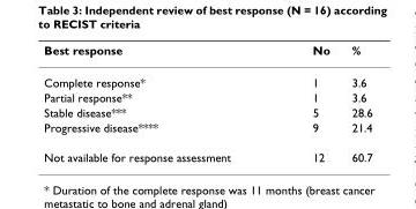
<table><thead><tr><td>Best response</td><td>No</td><td>%</td></tr></thead><tbody><tr><td>Complete response*</td><td>1</td><td>3.6</td></tr><tr><td>Partial response**</td><td>1</td><td>3.6</td></tr><tr><td>Stable disease***</td><td>5</td><td>28.6</td></tr><tr><td>Progressive disease****</td><td>9</td><td>21.4</td></tr><tr><td>Not available for response assessment</td><td>12</td><td>60.7</td></tr></tbody></table>